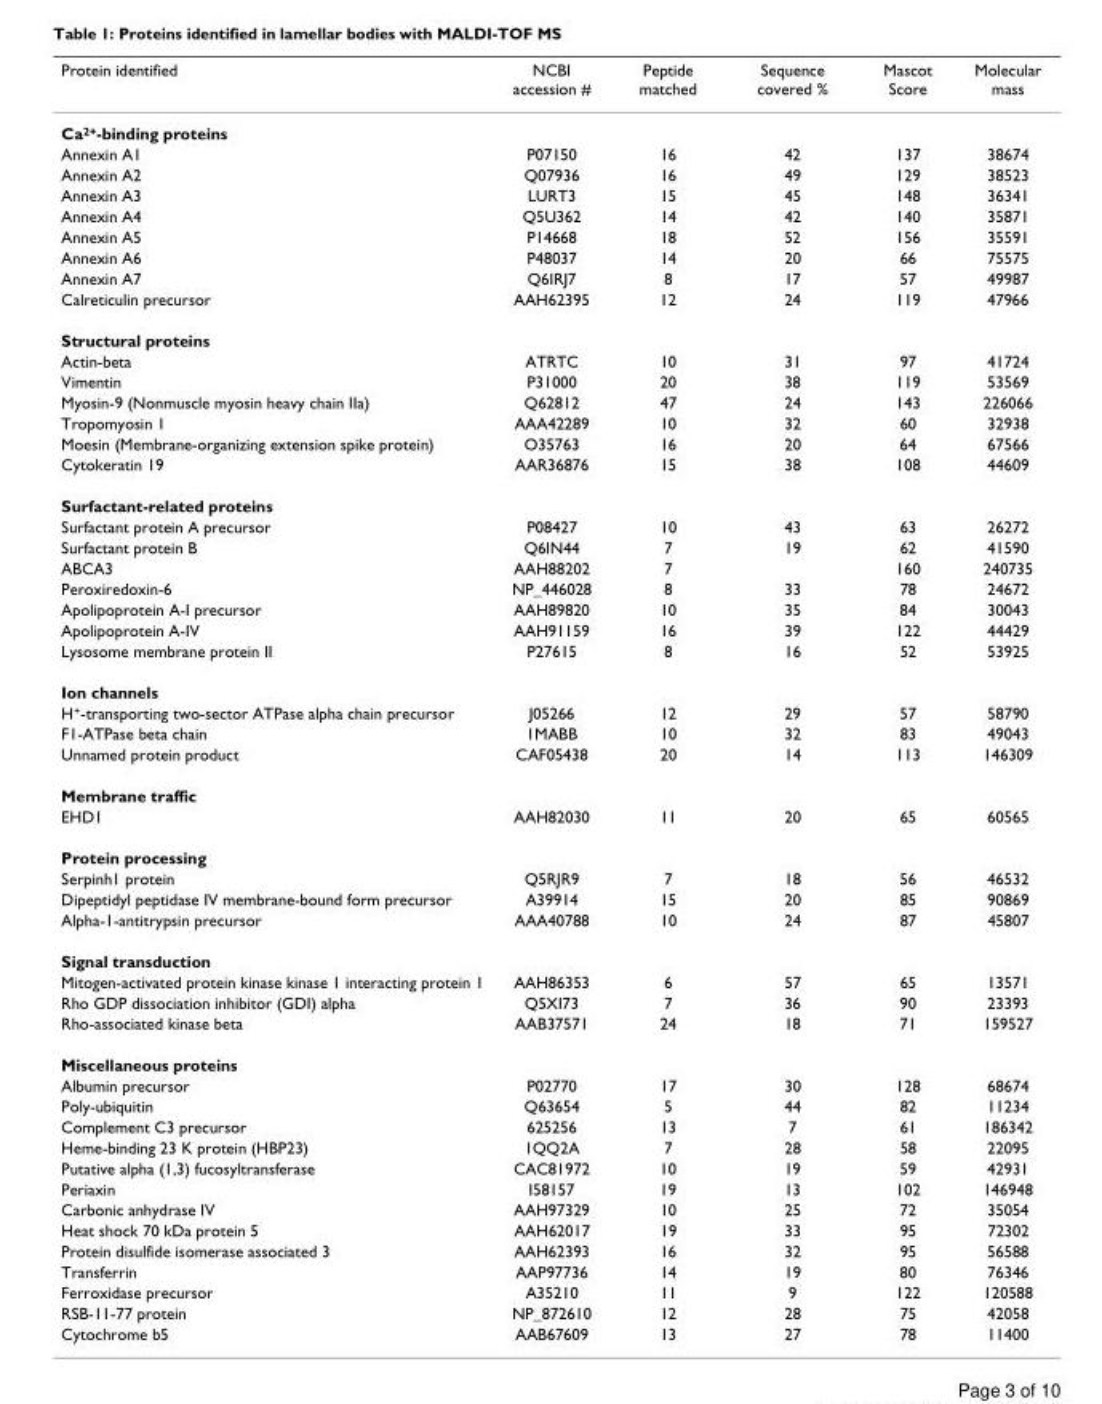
<table><thead><tr><td>Protein identified</td><td>NCBI accession #</td><td>Peptide matched</td><td>Sequence covered %</td><td>Mascot Score</td><td>Molecular mass</td></tr></thead><tbody><tr><td colspan="6">Ca<sup>2+</sup>-binding proteins</td></tr><tr><td>Annexin A1</td><td>P07150</td><td>16</td><td>42</td><td>137</td><td>38674</td></tr><tr><td>Annexin A2</td><td>Q07936</td><td>16</td><td>49</td><td>129</td><td>38523</td></tr><tr><td>Annexin A3</td><td>LURT3</td><td>15</td><td>45</td><td>148</td><td>36341</td></tr><tr><td>Annexin A4</td><td>Q5U362</td><td>14</td><td>42</td><td>140</td><td>35871</td></tr><tr><td>Annexin A5</td><td>P14668</td><td>18</td><td>52</td><td>156</td><td>35591</td></tr><tr><td>Annexin A6</td><td>P48037</td><td>14</td><td>20</td><td>66</td><td>75575</td></tr><tr><td>Annexin A7</td><td>Q6IRJ7</td><td>8</td><td>17</td><td>57</td><td>49987</td></tr><tr><td>Calreticulin precursor</td><td>AAH62395</td><td>12</td><td>24</td><td>119</td><td>47966</td></tr><tr><td colspan="6">Structural proteins</td></tr><tr><td>Actin-beta</td><td>ATRTC</td><td>10</td><td>31</td><td>97</td><td>41724</td></tr><tr><td>Vimentin</td><td>P31000</td><td>20</td><td>38</td><td>119</td><td>53569</td></tr><tr><td>Myosin-9 (Nonmuscle myosin heavy chain IIa)</td><td>Q62812</td><td>47</td><td>24</td><td>143</td><td>226066</td></tr><tr><td>Tropomyosin 1</td><td>AAA42289</td><td>10</td><td>32</td><td>60</td><td>32938</td></tr><tr><td>Moesin (Membrane-organizing extension spike protein)</td><td>O35763</td><td>16</td><td>20</td><td>64</td><td>67566</td></tr><tr><td>Cytokeratin 19</td><td>AAR36876</td><td>15</td><td>38</td><td>108</td><td>44609</td></tr><tr><td colspan="6">Surfactant-related proteins</td></tr><tr><td>Surfactant protein A precursor</td><td>P08427</td><td>10</td><td>43</td><td>63</td><td>26272</td></tr><tr><td>Surfactant protein B</td><td>Q6IN44</td><td>7</td><td>19</td><td>62</td><td>41590</td></tr><tr><td>ABCA3</td><td>AAH88202</td><td>7</td><td></td><td>160</td><td>240735</td></tr><tr><td>Peroxiredoxin-6</td><td>NP_446028</td><td>8</td><td>33</td><td>78</td><td>24672</td></tr><tr><td>Apolipoprotein A-I precursor</td><td>AAH89820</td><td>10</td><td>35</td><td>84</td><td>30043</td></tr><tr><td>Apolipoprotein A-IV</td><td>AAH91159</td><td>16</td><td>39</td><td>122</td><td>44429</td></tr><tr><td>Lysosome membrane protein II</td><td>P27615</td><td>8</td><td>16</td><td>52</td><td>53925</td></tr><tr><td colspan="6">Ion channels</td></tr><tr><td>H<sup>+</sup>-transporting two-sector ATPase alpha chain precursor</td><td>J05266</td><td>12</td><td>29</td><td>57</td><td>58790</td></tr><tr><td>F1-ATPase beta chain</td><td>1MABB</td><td>10</td><td>32</td><td>83</td><td>49043</td></tr><tr><td>Unnamed protein product</td><td>CAF05438</td><td>20</td><td>14</td><td>113</td><td>146309</td></tr><tr><td colspan="6">Membrane traffic</td></tr><tr><td>EHD1</td><td>AAH82030</td><td>11</td><td>20</td><td>65</td><td>60565</td></tr><tr><td colspan="6">Protein processing</td></tr><tr><td>Serpinh1 protein</td><td>Q5RJR9</td><td>7</td><td>18</td><td>56</td><td>46532</td></tr><tr><td>Dipeptidyl peptidase IV membrane-bound form precursor</td><td>A39914</td><td>15</td><td>20</td><td>85</td><td>90869</td></tr><tr><td>Alpha-1-antitrypsin precursor</td><td>AAA40788</td><td>10</td><td>24</td><td>87</td><td>45807</td></tr><tr><td colspan="6">Signal transduction</td></tr><tr><td>Mitogen-activated protein kinase kinase 1 interacting protein 1</td><td>AAH86353</td><td>6</td><td>57</td><td>65</td><td>13571</td></tr><tr><td>Rho GDP dissociation inhibitor (GDI) alpha</td><td>Q5XI73</td><td>7</td><td>36</td><td>90</td><td>23393</td></tr><tr><td>Rho-associated kinase beta</td><td>AAB37571</td><td>24</td><td>18</td><td>71</td><td>159527</td></tr><tr><td colspan="6">Miscellaneous proteins</td></tr><tr><td>Albumin precursor</td><td>P02770</td><td>17</td><td>30</td><td>128</td><td>68674</td></tr><tr><td>Poly-ubiquitin</td><td>Q63654</td><td>5</td><td>44</td><td>82</td><td>11234</td></tr><tr><td>Complement C3 precursor</td><td>625256</td><td>13</td><td>7</td><td>61</td><td>186342</td></tr><tr><td>Heme-binding 23 K protein (HBP23)</td><td>1QQ2A</td><td>7</td><td>28</td><td>58</td><td>22095</td></tr><tr><td>Putative alpha (1,3) fucosyltransferase</td><td>CAC81972</td><td>10</td><td>19</td><td>59</td><td>42931</td></tr><tr><td>Periaxin</td><td>I58157</td><td>19</td><td>13</td><td>102</td><td>146948</td></tr><tr><td>Carbonic anhydrase IV</td><td>AAH97329</td><td>10</td><td>25</td><td>72</td><td>35054</td></tr><tr><td>Heat shock 70 kDa protein 5</td><td>AAH62017</td><td>19</td><td>33</td><td>95</td><td>72302</td></tr><tr><td>Protein disulfide isomerase associated 3</td><td>AAH62393</td><td>16</td><td>32</td><td>95</td><td>56588</td></tr><tr><td>Transferrin</td><td>AAP97736</td><td>14</td><td>19</td><td>80</td><td>76346</td></tr><tr><td>Ferroxidase precursor</td><td>A35210</td><td>11</td><td>9</td><td>122</td><td>120588</td></tr><tr><td>RSB-11-77 protein</td><td>NP_872610</td><td>12</td><td>28</td><td>75</td><td>42058</td></tr><tr><td>Cytochrome b5</td><td>AAB67609</td><td>13</td><td>27</td><td>78</td><td>11400</td></tr></tbody></table>